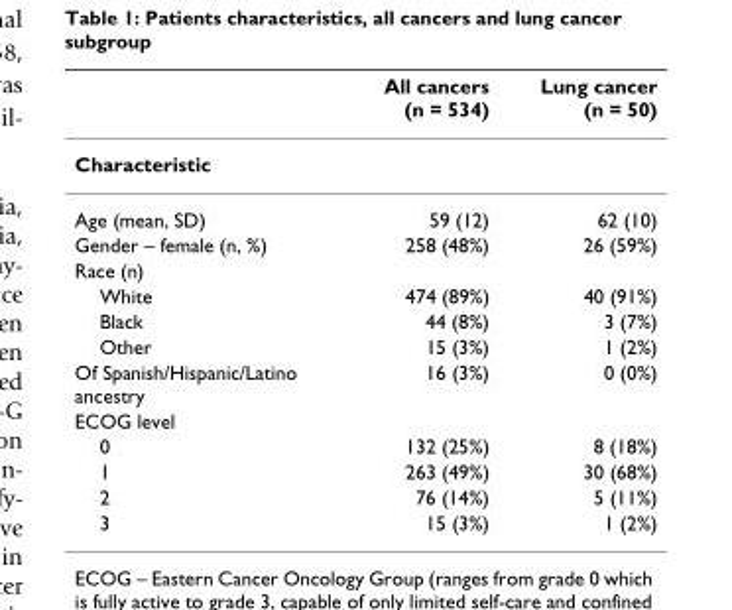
<table><thead><tr><td></td><td>All cancers (n = 534)</td><td>Lung cancer (n = 50)</td></tr></thead><tbody><tr><td colspan="3">Characteristic</td></tr><tr><td>Age (mean, SD)</td><td>59 (12)</td><td>62 (10)</td></tr><tr><td>Gender – female (n, %)</td><td>258 (48%)</td><td>26 (59%)</td></tr><tr><td colspan="3">Race (n)</td></tr><tr><td>White</td><td>474 (89%)</td><td>40 (91%)</td></tr><tr><td>Black</td><td>44 (8%)</td><td>3 (7%)</td></tr><tr><td>Other</td><td>15 (3%)</td><td>1 (2%)</td></tr><tr><td>Of Spanish/Hispanic/Latino ancestry</td><td>16 (3%)</td><td>0 (0%)</td></tr><tr><td colspan="3">ECOG level</td></tr><tr><td>0</td><td>132 (25%)</td><td>8 (18%)</td></tr><tr><td>1</td><td>263 (49%)</td><td>30 (68%)</td></tr><tr><td>2</td><td>76 (14%)</td><td>5 (11%)</td></tr><tr><td>3</td><td>15 (3%)</td><td>1 (2%)</td></tr></tbody></table>